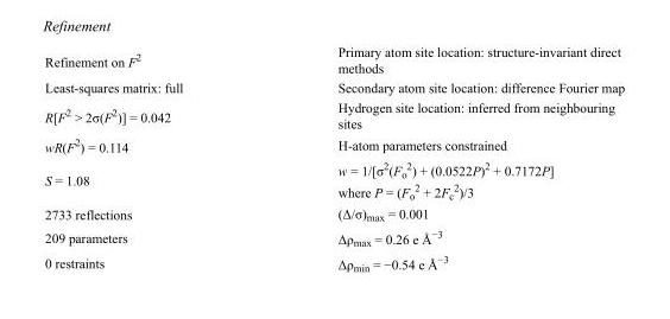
<table><tbody><tr><td>Refinement on F<sup>2</sup></td><td>Primary atom site location: structure-invariant direct methods</td></tr><tr><td>Least-squares matrix: full</td><td>Secondary atom site location: difference Fourier map</td></tr><tr><td>R[F<sup>2</sup> &gt; 2σ(F<sup>2</sup>)] = 0.042</td><td>Hydrogen site location: inferred from neighbouring sites</td></tr><tr><td>wR(F<sup>2</sup>) = 0.114</td><td>H-atom parameters constrained</td></tr><tr><td>S = 1.08</td><td>w = 1/[σ<sup>2</sup>(F<sub>o</sub> <sup>2</sup>) + (0.0522P)<sup>2</sup> + 0.7172P] where P = (F<sub>o</sub> <sup>2</sup> + 2F<sub>c</sub> <sup>2</sup>)/3</td></tr><tr><td>2733 reflections</td><td>(Δ/σ)<sub>max</sub> = 0.001</td></tr><tr><td>209 parameters</td><td>Δρ<sub>max</sub> = 0.26 e Å<sup>−3</sup></td></tr><tr><td>0 restraints</td><td>Δρ<sub>min</sub> = −0.54 e Å<sup>−3</sup></td></tr></tbody></table>